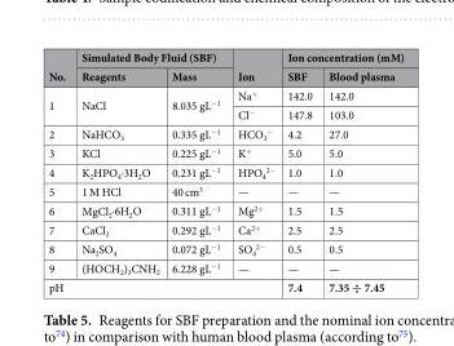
<table><thead><tr><td rowspan="2">No.</td><td colspan="2">Simulated Body Fluid (SBF)</td><td rowspan="2">Ion</td><td colspan="2">Ion concentration (mM)</td></tr><tr><td>Reagents</td><td>Mass</td><td>SBF</td><td>Blood plasma</td></tr></thead><tbody><tr><td rowspan="2">1</td><td rowspan="2">NaCl</td><td rowspan="2">8.035 gL<sup>−1</sup></td><td>Na<sup>+</sup></td><td>142.0</td><td>142.0</td></tr><tr><td>Cl<sup>−</sup></td><td>147.8</td><td>103.0</td></tr><tr><td>2</td><td>NaHCO<sub>3</sub></td><td>0.335 gL<sup>−1</sup></td><td>HCO<sub>3</sub> <sup>−</sup></td><td>4.2</td><td>27.0</td></tr><tr><td>3</td><td>KCl</td><td>0.225 gL<sup>−1</sup></td><td>K<sup>+</sup></td><td>5.0</td><td>5.0</td></tr><tr><td>4</td><td>K<sub>2</sub>HPO<sub>4</sub>·3H<sub>2</sub>O</td><td>0.231 gL<sup>−1</sup></td><td>HPO<sub>4</sub> <sup>2−</sup></td><td>1.0</td><td>1.0</td></tr><tr><td>5</td><td>1 M HCl</td><td>40 cm<sup>3</sup></td><td>—</td><td>—</td><td>—</td></tr><tr><td>6</td><td>MgCl<sub>2</sub>·6H<sub>2</sub>O</td><td>0.311 gL<sup>−1</sup></td><td>Mg<sup>2+</sup></td><td>1.5</td><td>1.5</td></tr><tr><td>7</td><td>CaCl<sub>2</sub></td><td>0.292 gL<sup>−1</sup></td><td>Ca<sup>2+</sup></td><td>2.5</td><td>2.5</td></tr><tr><td>8</td><td>Na<sub>2</sub>SO<sub>4</sub></td><td>0.072 gL<sup>−1</sup></td><td>SO<sub>4</sub> <sup>2−</sup></td><td>0.5</td><td>0.5</td></tr><tr><td>9</td><td>(HOCH<sub>2</sub>)<sub>3</sub>CNH<sub>2</sub></td><td>6.228 gL<sup>−1</sup></td><td>—</td><td>—</td><td>—</td></tr><tr><td colspan="4">pH</td><td>7.4</td><td>7.35 ÷ 7.45</td></tr></tbody></table>